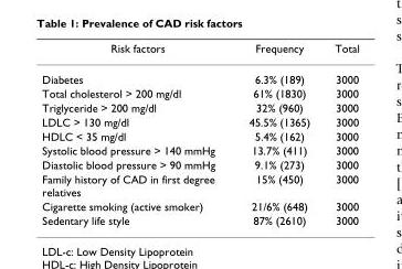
<table><thead><tr><td>Risk factors</td><td>Frequency</td><td>Total</td></tr></thead><tbody><tr><td>Diabetes</td><td>6.3% (189)</td><td>3000</td></tr><tr><td>Total cholesterol &gt; 200 mg/dl</td><td>61% (1830)</td><td>3000</td></tr><tr><td>Triglyceride &gt; 200 mg/dl</td><td>32% (960)</td><td>3000</td></tr><tr><td>LDLC &gt; 130 mg/dl</td><td>45.5% (1365)</td><td>3000</td></tr><tr><td>HDLC &lt; 35 mg/dl</td><td>5.4% (162)</td><td>3000</td></tr><tr><td>Systolic blood pressure &gt; 140 mmHg</td><td>13.7% (411)</td><td>3000</td></tr><tr><td>Diastolic blood pressure &gt; 90 mmHg</td><td>9.1% (273)</td><td>3000</td></tr><tr><td>Family history of CAD in first degree relatives</td><td>15% (450)</td><td>3000</td></tr><tr><td>Cigarette smoking (active smoker)</td><td>21/6% (648)</td><td>3000</td></tr><tr><td>Sedentary life style</td><td>87% (2610)</td><td>3000</td></tr></tbody></table>